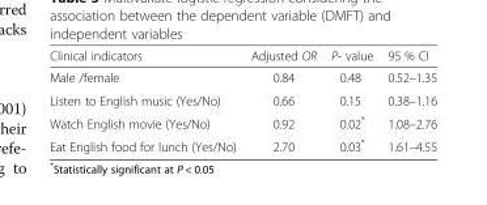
<table><thead><tr><td>Clinical indicators</td><td>Adjusted OR</td><td>P- value</td><td>95 % CI</td></tr></thead><tbody><tr><td>Male /female</td><td>0.84</td><td>0.48</td><td>0.52–1.35</td></tr><tr><td>Listen to English music (Yes/No)</td><td>0.66</td><td>0.15</td><td>0.38–1.16</td></tr><tr><td>Watch English movie (Yes/No)</td><td>0.92</td><td>0.02*</td><td>1.08–2.76</td></tr><tr><td>Eat English food for lunch (Yes/No)</td><td>2.70</td><td>0.03*</td><td>1.61–4.55</td></tr></tbody></table>